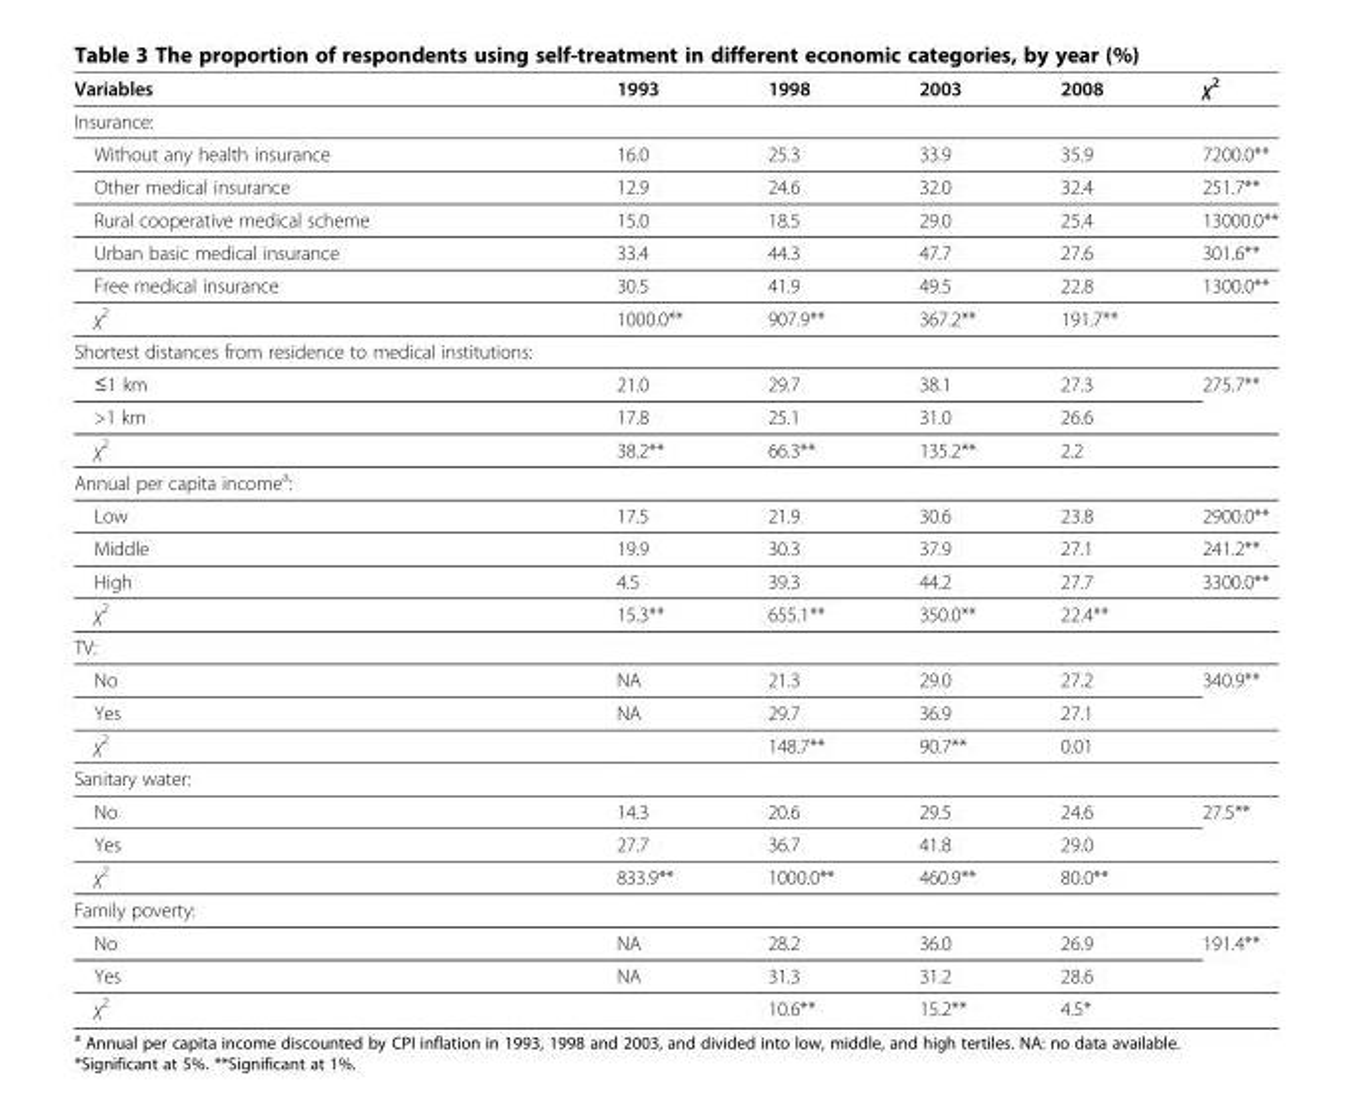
<table><thead><tr><td>Variables</td><td>1993</td><td>1998</td><td>2003</td><td>2008</td><td>χ<sup>2</sup></td></tr></thead><tbody><tr><td colspan="6">Insurance:</td></tr><tr><td>Without any health insurance</td><td>16.0</td><td>25.3</td><td>33.9</td><td>35.9</td><td>7200.0**</td></tr><tr><td>Other medical insurance</td><td>12.9</td><td>24.6</td><td>32.0</td><td>32.4</td><td>251.7**</td></tr><tr><td>Rural cooperative medical scheme</td><td>15.0</td><td>18.5</td><td>29.0</td><td>25.4</td><td>13000.0**</td></tr><tr><td>Urban basic medical insurance</td><td>33.4</td><td>44.3</td><td>47.7</td><td>27.6</td><td>301.6**</td></tr><tr><td>Free medical insurance</td><td>30.5</td><td>41.9</td><td>49.5</td><td>22.8</td><td>1300.0**</td></tr><tr><td>χ<sup>2</sup></td><td>1000.0**</td><td>907.9**</td><td>367.2**</td><td>191.7**</td><td></td></tr><tr><td colspan="6">Shortest distances from residence to medical institutions:</td></tr><tr><td>≤1 km</td><td>21.0</td><td>29.7</td><td>38.1</td><td>27.3</td><td rowspan="2">275.7**</td></tr><tr><td>&gt;1 km</td><td>17.8</td><td>25.1</td><td>31.0</td><td>26.6</td></tr><tr><td>χ<sup>2</sup></td><td>38.2**</td><td>66.3**</td><td>135.2**</td><td>2.2</td><td></td></tr><tr><td colspan="6">Annual per capita income<sup>a</sup>:</td></tr><tr><td>Low</td><td>17.5</td><td>21.9</td><td>30.6</td><td>23.8</td><td>2900.0**</td></tr><tr><td>Middle</td><td>19.9</td><td>30.3</td><td>37.9</td><td>27.1</td><td>241.2**</td></tr><tr><td>High</td><td>4.5</td><td>39.3</td><td>44.2</td><td>27.7</td><td>3300.0**</td></tr><tr><td>χ<sup>2</sup></td><td>15.3**</td><td>655.1**</td><td>350.0**</td><td>22.4**</td><td></td></tr><tr><td colspan="6">TV:</td></tr><tr><td>No</td><td>NA</td><td>21.3</td><td>29.0</td><td>27.2</td><td rowspan="2">340.9**</td></tr><tr><td>Yes</td><td>NA</td><td>29.7</td><td>36.9</td><td>27.1</td></tr><tr><td>χ<sup>2</sup></td><td></td><td>148.7**</td><td>90.7**</td><td>0.01</td><td></td></tr><tr><td colspan="6">Sanitary water:</td></tr><tr><td>No</td><td>14.3</td><td>20.6</td><td>29.5</td><td>24.6</td><td rowspan="2">27.5**</td></tr><tr><td>Yes</td><td>27.7</td><td>36.7</td><td>41.8</td><td>29.0</td></tr><tr><td>χ<sup>2</sup></td><td>833.9**</td><td>1000.0**</td><td>460.9**</td><td>80.0**</td><td></td></tr><tr><td colspan="6">Family poverty:</td></tr><tr><td>No</td><td>NA</td><td>28.2</td><td>36.0</td><td>26.9</td><td rowspan="2">191.4**</td></tr><tr><td>Yes</td><td>NA</td><td>31.3</td><td>31.2</td><td>28.6</td></tr><tr><td>χ<sup>2</sup></td><td></td><td>10.6**</td><td>15.2**</td><td>4.5*</td><td></td></tr></tbody></table>